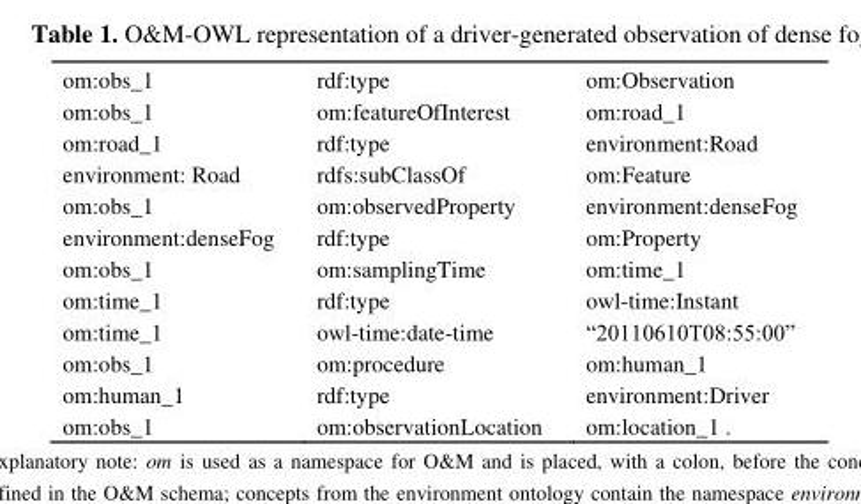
<table><tbody><tr><td>om:obs_1</td><td>rdf:type</td><td>om:Observation</td></tr><tr><td>om:obs_1</td><td>om:featureOfInterest</td><td>om:road_1</td></tr><tr><td>om:road_1</td><td>rdf:type</td><td>environment:Road</td></tr><tr><td>environment: Road</td><td>rdfs:subClassOf</td><td>om:Feature</td></tr><tr><td>om:obs_1</td><td>om:observedProperty</td><td>environment:denseFog</td></tr><tr><td>environment:denseFog</td><td>rdf:type</td><td>om:Property</td></tr><tr><td>om:obs_1</td><td>om:samplingTime</td><td>om:time_1</td></tr><tr><td>om:time_1</td><td>rdf:type</td><td>owl-time:Instant</td></tr><tr><td>om:time_1</td><td>owl-time:date-time</td><td>―20110610T08:55:00‖</td></tr><tr><td>om:obs_1</td><td>om:procedure</td><td>om:human_1</td></tr><tr><td>om:human_1</td><td>rdf:type</td><td>environment:Driver</td></tr><tr><td>om:obs_1</td><td>om:observationLocation</td><td>om:location_1 .</td></tr></tbody></table>